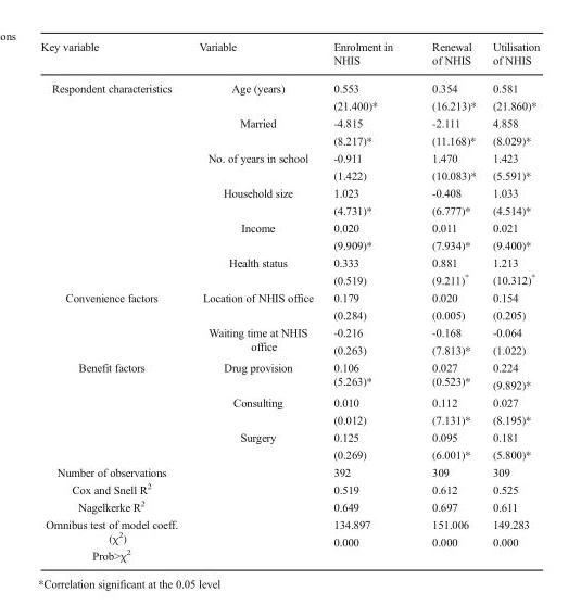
<table><thead><tr><td>Key variable</td><td>Variable</td><td>Enrolment in NHIS</td><td>Renewal of NHIS</td><td>Utilisation of NHIS</td></tr></thead><tbody><tr><td rowspan="12">Respondent characteristics</td><td rowspan="2">Age (years)</td><td>0.553</td><td>0.354</td><td>0.581</td></tr><tr><td>(21.400)*</td><td>(16.213)*</td><td>(21.860)*</td></tr><tr><td rowspan="2">Married</td><td>-4.815</td><td>-2.111</td><td>4.858</td></tr><tr><td>(8.217)*</td><td>(11.168)*</td><td>(8.029)*</td></tr><tr><td rowspan="2">No. of years in school</td><td>-0.911</td><td>1.470</td><td>1.423</td></tr><tr><td>(1.422)</td><td>(10.083)*</td><td>(5.591)*</td></tr><tr><td rowspan="2">Household size</td><td>1.023</td><td>-0.408</td><td>1.033</td></tr><tr><td>(4.731)*</td><td>(6.777)*</td><td>(4.514)*</td></tr><tr><td rowspan="2">Income</td><td>0.020</td><td>0.011</td><td>0.021</td></tr><tr><td>(9.909)*</td><td>(7.934)*</td><td>(9.400)*</td></tr><tr><td rowspan="2">Health status</td><td>0.333</td><td>0.881</td><td>1.213</td></tr><tr><td>(0.519)</td><td>(9.211)*</td><td>(10.312)*</td></tr><tr><td rowspan="4">Convenience factors</td><td rowspan="2">Location of NHIS office</td><td>0.179</td><td>0.020</td><td>0.154</td></tr><tr><td>(0.284)</td><td>(0.005)</td><td>(0.205)</td></tr><tr><td rowspan="2">Waiting time at NHIS office</td><td>-0.216</td><td>-0.168</td><td>-0.064</td></tr><tr><td>(0.263)</td><td>(7.813)*</td><td>(1.022)</td></tr><tr><td rowspan="6">Benefit factors</td><td rowspan="2">Drug provision</td><td>0.106</td><td>0.027</td><td rowspan="2">0.224 (9.892)*</td></tr><tr><td>(5.263)*</td><td>(0.523)*</td></tr><tr><td rowspan="2">Consulting</td><td>0.010</td><td>0.112</td><td>0.027</td></tr><tr><td>(0.012)</td><td>(7.131)*</td><td>(8.195)*</td></tr><tr><td rowspan="2">Surgery</td><td>0.125</td><td>0.095</td><td>0.181</td></tr><tr><td>(0.269)</td><td>(6.001)*</td><td>(5.800)*</td></tr><tr><td>Number of observations</td><td></td><td>392</td><td>309</td><td>309</td></tr><tr><td>Cox and Snell R<sup>2</sup></td><td></td><td>0.519</td><td>0.612</td><td>0.525</td></tr><tr><td>Nagelkerke R<sup>2</sup></td><td></td><td>0.649</td><td>0.697</td><td>0.611</td></tr><tr><td>Omnibus test of model coeff. (χ<sup>2</sup>) Prob˃χ<sup>2</sup></td><td></td><td>134.897 0.000</td><td>151.006 0.000</td><td>149.283 0.000</td></tr></tbody></table>